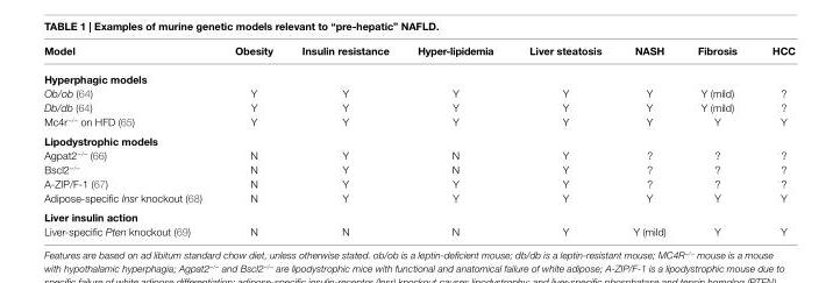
<table><thead><tr><td>Model</td><td>Obesity</td><td>insulin resistance</td><td>Hyper-lipidemia</td><td>Liver steatosis</td><td>NASH</td><td>Fibrosis</td><td>HCC</td></tr></thead><tbody><tr><td colspan="8">Hyperphagic models</td></tr><tr><td>Ob/ob (64)</td><td>Y</td><td>Y</td><td>Y</td><td>Y</td><td>Y</td><td>Y (mild)</td><td>?</td></tr><tr><td>Db/db (64)</td><td>Y</td><td>Y</td><td>Y</td><td>Y</td><td>Y</td><td>Y (mild)</td><td>?</td></tr><tr><td>Mc4r<sup>−/−</sup> on HFD (65)</td><td>Y</td><td>Y</td><td>Y</td><td>Y</td><td>Y</td><td>Y</td><td>Y</td></tr><tr><td colspan="8">Lipodystrophic models</td></tr><tr><td>Agpat2<sup>−/−</sup> (66)</td><td>N</td><td>Y</td><td>N</td><td>Y</td><td>?</td><td>?</td><td>?</td></tr><tr><td>Bscl2<sup>−/−</sup></td><td>N</td><td>Y</td><td>N</td><td>Y</td><td>?</td><td>?</td><td>?</td></tr><tr><td>A-ZIP/F-1 (67)</td><td>N</td><td>Y</td><td>Y</td><td>Y</td><td>?</td><td>?</td><td>?</td></tr><tr><td>Adipose-specific Insr knockout (68)</td><td>N</td><td>Y</td><td>Y</td><td>Y</td><td>Y</td><td>Y</td><td>Y</td></tr><tr><td colspan="8">Liver insulin action</td></tr><tr><td>Liver-specific Pten knockout (69)</td><td>N</td><td>N</td><td>N</td><td>Y</td><td>Y (mild)</td><td>Y</td><td>Y</td></tr></tbody></table>